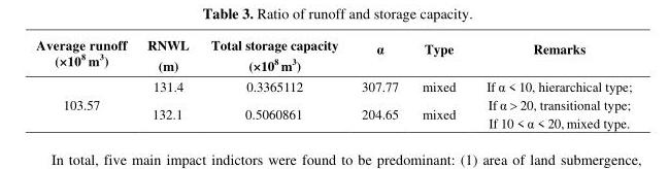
<table><thead><tr><td>Average runoff (×10<sup>8</sup> m<sup>3</sup>)</td><td>RNWL (m)</td><td>Total storage capacity (×10<sup>8</sup> m<sup>3</sup>)</td><td>α</td><td>Type</td><td>Remarks</td></tr></thead><tbody><tr><td rowspan="3">103.57</td><td>131.4</td><td>0.3365112</td><td>307.77</td><td>mixed</td><td>If α &lt; 10, hierarchical type;</td></tr><tr><td rowspan="2">132.1</td><td rowspan="2">0.5060861</td><td rowspan="2">204.65</td><td rowspan="2">mixed</td><td>If α &gt; 20, transitional type;</td></tr><tr><td>If 10 &lt; α &lt; 20, mixed type.</td></tr></tbody></table>